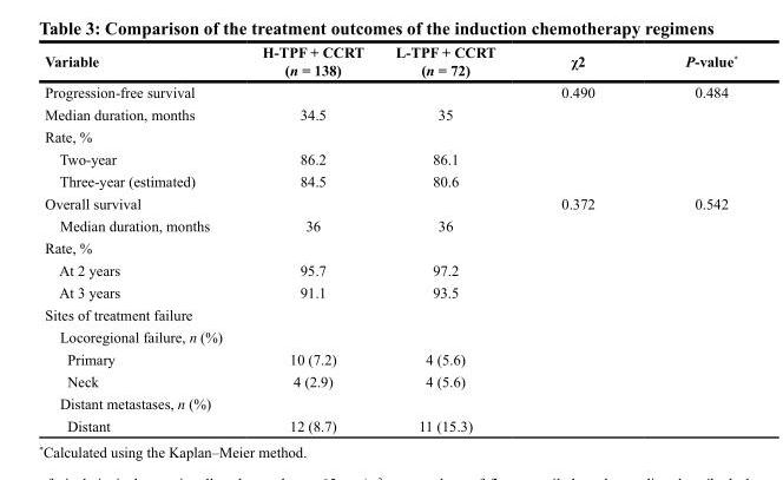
<table><thead><tr><td>Variable</td><td>H-TPF + CCRT (n = 138)</td><td>L-TPF + CCRT (n = 72)</td><td>χ2</td><td>P-value*</td></tr></thead><tbody><tr><td>Progression-free survival</td><td></td><td></td><td>0.490</td><td>0.484</td></tr><tr><td>Median duration, months</td><td>34.5</td><td>35</td><td></td><td></td></tr><tr><td colspan="5">Rate, %</td></tr><tr><td>Two-year</td><td>86.2</td><td>86.1</td><td></td><td></td></tr><tr><td>Three-year (estimated)</td><td>84.5</td><td>80.6</td><td></td><td></td></tr><tr><td>Overall survival</td><td></td><td></td><td>0.372</td><td>0.542</td></tr><tr><td>Median duration, months</td><td>36</td><td>36</td><td></td><td></td></tr><tr><td colspan="5">Rate, %</td></tr><tr><td>At 2 years</td><td>95.7</td><td>97.2</td><td></td><td></td></tr><tr><td>At 3 years</td><td>91.1</td><td>93.5</td><td></td><td></td></tr><tr><td colspan="5">Sites of treatment failure</td></tr><tr><td colspan="5">Locoregional failure, n (%)</td></tr><tr><td>Primary</td><td>10 (7.2)</td><td>4 (5.6)</td><td></td><td></td></tr><tr><td>Neck</td><td>4 (2.9)</td><td>4 (5.6)</td><td></td><td></td></tr><tr><td colspan="5">Distant metastases, n (%)</td></tr><tr><td>Distant</td><td>12 (8.7)</td><td>11 (15.3)</td><td></td><td></td></tr></tbody></table>